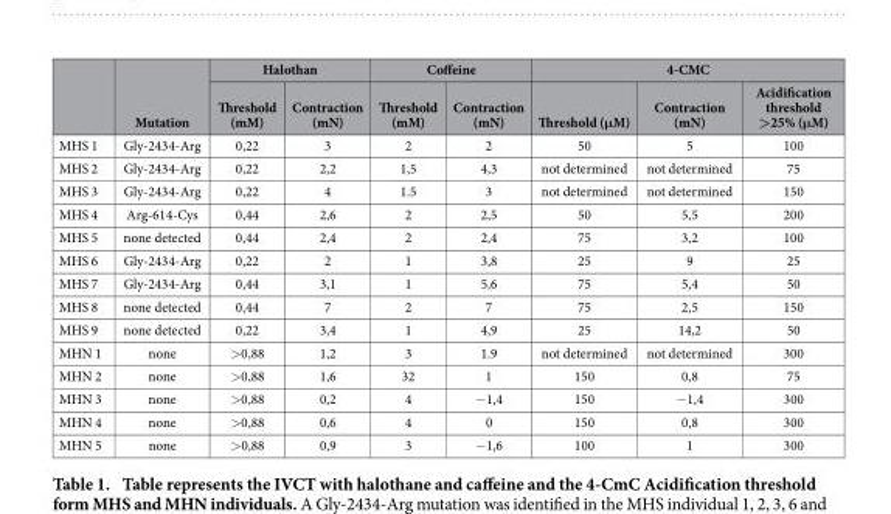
<table><thead><tr><td rowspan="2"></td><td rowspan="2">Mutation</td><td colspan="2">Halothan</td><td colspan="2">Coffeine</td><td colspan="3">4-CMC</td></tr><tr><td>Threshold (mM)</td><td>Contraction (mN)</td><td>Threshold (mM)</td><td>Contraction (mN)</td><td>Threshold (μM)</td><td>Contraction (mN)</td><td>Acidification threshold &gt;25% (μM)</td></tr></thead><tbody><tr><td>MHS 1</td><td>Gly-2434-Arg</td><td>0,22</td><td>3</td><td>2</td><td>2</td><td>50</td><td>5</td><td>100</td></tr><tr><td>MHS 2</td><td>Gly-2434-Arg</td><td>0,22</td><td>2,2</td><td>1,5</td><td>4,3</td><td>not determined</td><td>not determined</td><td>75</td></tr><tr><td>MHS 3</td><td>Gly-2434-Arg</td><td>0,22</td><td>4</td><td>1.5</td><td>3</td><td>not determined</td><td>not determined</td><td>150</td></tr><tr><td>MHS 4</td><td>Arg-614-Cys</td><td>0,44</td><td>2,6</td><td>2</td><td>2,5</td><td>50</td><td>5,5</td><td>200</td></tr><tr><td>MHS 5</td><td>none detected</td><td>0,44</td><td>2,4</td><td>2</td><td>2,4</td><td>75</td><td>3,2</td><td>100</td></tr><tr><td>MHS 6</td><td>Gly-2434-Arg</td><td>0,22</td><td>2</td><td>1</td><td>3,8</td><td>25</td><td>9</td><td>25</td></tr><tr><td>MHS 7</td><td>Gly-2434-Arg</td><td>0,44</td><td>3,1</td><td>1</td><td>5,6</td><td>75</td><td>5,4</td><td>50</td></tr><tr><td>MHS 8</td><td>none detected</td><td>0,44</td><td>7</td><td>2</td><td>7</td><td>75</td><td>2,5</td><td>150</td></tr><tr><td>MHS 9</td><td>none detected</td><td>0,22</td><td>3,4</td><td>1</td><td>4,9</td><td>25</td><td>14,2</td><td>50</td></tr><tr><td>MHN 1</td><td>none</td><td>&gt; 0,88</td><td>1,2</td><td>3</td><td>1.9</td><td>not determined</td><td>not determined</td><td>300</td></tr><tr><td>MHN 2</td><td>none</td><td>&gt; 0,88</td><td>1,6</td><td>32</td><td>1</td><td>150</td><td>0,8</td><td>75</td></tr><tr><td>MHN 3</td><td>none</td><td>&gt; 0,88</td><td>0,2</td><td>4</td><td>− 1,4</td><td>150</td><td>− 1,4</td><td>300</td></tr><tr><td>MHN 4</td><td>none</td><td>&gt; 0,88</td><td>0,6</td><td>4</td><td>0</td><td>150</td><td>0,8</td><td>300</td></tr><tr><td>MHN 5</td><td>none</td><td>&gt; 0,88</td><td>0,9</td><td>3</td><td>− 1,6</td><td>100</td><td>1</td><td>300</td></tr></tbody></table>